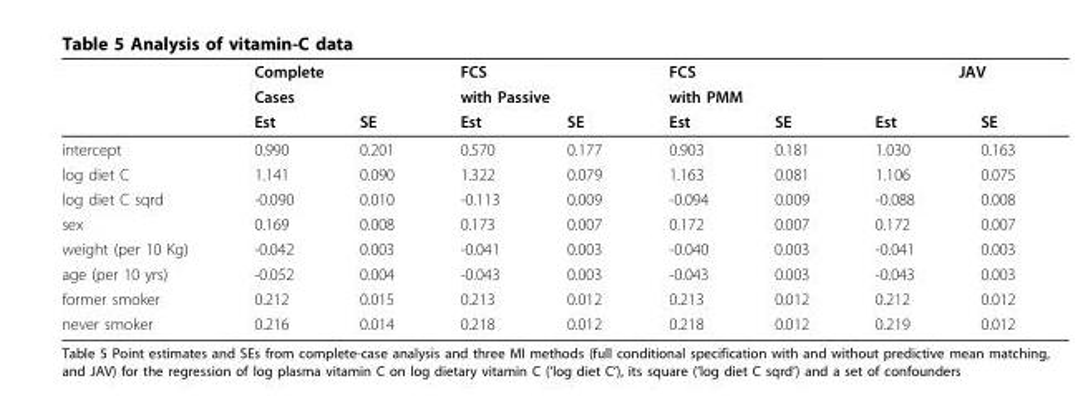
<table><thead><tr><td rowspan="3"></td><td rowspan="2" colspan="2">Complete Cases</td><td rowspan="2" colspan="2">FCS with Passive</td><td rowspan="2" colspan="2">FCS with PMM</td><td colspan="2">JAV</td></tr><tr><td rowspan="2">Est</td><td rowspan="2">SE</td></tr><tr><td>Est</td><td>SE</td><td>Est</td><td>SE</td><td>Est</td><td>SE</td></tr></thead><tbody><tr><td>intercept</td><td>0.990</td><td>0.201</td><td>0.570</td><td>0.177</td><td>0.903</td><td>0.181</td><td>1.030</td><td>0.163</td></tr><tr><td>log diet C</td><td>1.141</td><td>0.090</td><td>1.322</td><td>0.079</td><td>1.163</td><td>0.081</td><td>1.106</td><td>0.075</td></tr><tr><td>log diet C sqrd</td><td>-0.090</td><td>0.010</td><td>-0.113</td><td>0.009</td><td>-0.094</td><td>0.009</td><td>-0.088</td><td>0.008</td></tr><tr><td>sex</td><td>0.169</td><td>0.008</td><td>0.173</td><td>0.007</td><td>0.172</td><td>0.007</td><td>0.172</td><td>0.007</td></tr><tr><td>weight (per 10 Kg)</td><td>-0.042</td><td>0.003</td><td>-0.041</td><td>0.003</td><td>-0.040</td><td>0.003</td><td>-0.041</td><td>0.003</td></tr><tr><td>age (per 10 yrs)</td><td>-0.052</td><td>0.004</td><td>-0.043</td><td>0.003</td><td>-0.043</td><td>0.003</td><td>-0.043</td><td>0.003</td></tr><tr><td>former smoker</td><td>0.212</td><td>0.015</td><td>0.213</td><td>0.012</td><td>0.213</td><td>0.012</td><td>0.212</td><td>0.012</td></tr><tr><td>never smoker</td><td>0.216</td><td>0.014</td><td>0.218</td><td>0.012</td><td>0.218</td><td>0.012</td><td>0.219</td><td>0.012</td></tr></tbody></table>